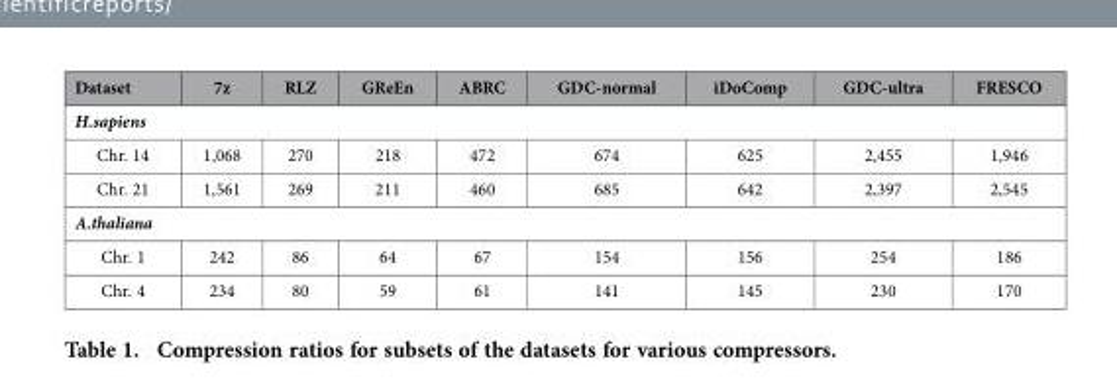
<table><thead><tr><td>Dataset</td><td>7z</td><td>RLZ</td><td>GReEn</td><td>ABRC</td><td>GDC-normal</td><td>iDoComp</td><td>GDC-ultra</td><td>FRESCO</td></tr></thead><tbody><tr><td colspan="9">H.sapiens</td></tr><tr><td>Chr. 14</td><td>1,068</td><td>270</td><td>218</td><td>472</td><td>674</td><td>625</td><td>2,455</td><td>1,946</td></tr><tr><td>Chr. 21</td><td>1,561</td><td>269</td><td>211</td><td>460</td><td>685</td><td>642</td><td>2,397</td><td>2,545</td></tr><tr><td colspan="9">A.thaliana</td></tr><tr><td>Chr. 1</td><td>242</td><td>86</td><td>64</td><td>67</td><td>154</td><td>156</td><td>254</td><td>186</td></tr><tr><td>Chr. 4</td><td>234</td><td>80</td><td>59</td><td>61</td><td>141</td><td>145</td><td>230</td><td>170</td></tr></tbody></table>